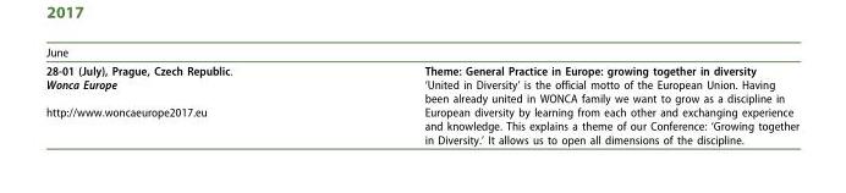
<table><thead><tr><td>June</td><td></td></tr></thead><tbody><tr><td>28-01 (July), Prague, Czech Republic. Wonca Europe http://www.woncaeurope2017.eu</td><td>Theme: General Practice in Europe: growing together in diversity ‘United in Diversity’ is the official motto of the European Union. Having been already united in WONCA family we want to grow as a discipline in European diversity by learning from each other and exchanging experience and knowledge. This explains a theme of our Conference: ‘Growing together in Diversity.’ It allows us to open all dimensions of the discipline.</td></tr></tbody></table>